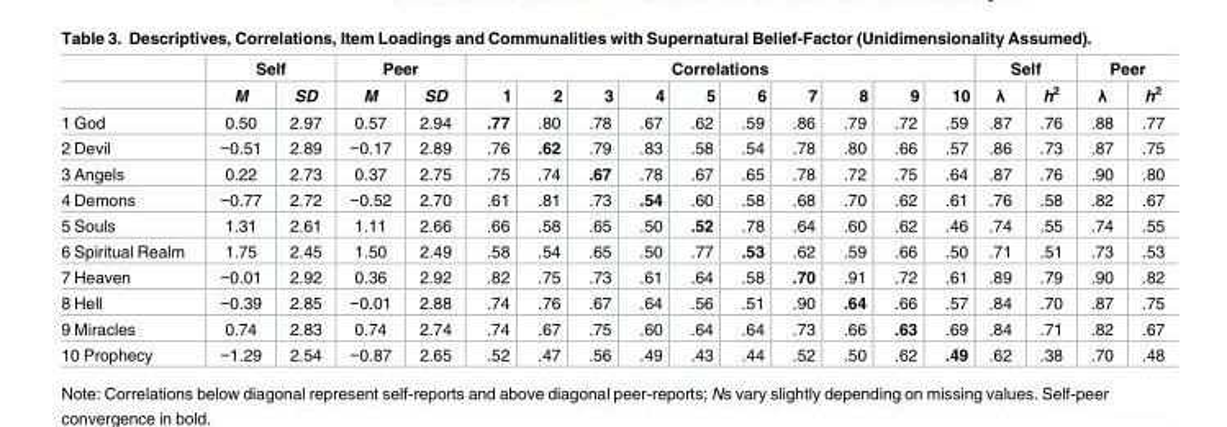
<table><thead><tr><td rowspan="2"></td><td colspan="2">Self</td><td colspan="2">Peer</td><td colspan="10">Correlations</td><td colspan="2">Self</td><td colspan="2">Peer</td></tr><tr><td>M</td><td>SD</td><td>M</td><td>SD</td><td>1</td><td>2</td><td>3</td><td>4</td><td>5</td><td>6</td><td>7</td><td>8</td><td>9</td><td>10</td><td>λ</td><td>h<sup>2</sup></td><td>λ</td><td>h<sup>2</sup></td></tr></thead><tbody><tr><td>1 God</td><td>0.50</td><td>2.97</td><td>0.57</td><td>2.94</td><td>.77</td><td>.80</td><td>.78</td><td>.67</td><td>.62</td><td>.59</td><td>.86</td><td>.79</td><td>.72</td><td>.59</td><td>.87</td><td>.76</td><td>.88</td><td>.77</td></tr><tr><td>2 Devil</td><td>−0.51</td><td>2.89</td><td>−0.17</td><td>2.89</td><td>.76</td><td>.62</td><td>.79</td><td>.83</td><td>.58</td><td>.54</td><td>.78</td><td>.80</td><td>.66</td><td>.57</td><td>.86</td><td>.73</td><td>.87</td><td>.75</td></tr><tr><td>3 Angels</td><td>0.22</td><td>2.73</td><td>0.37</td><td>2.75</td><td>.75</td><td>.74</td><td>.67</td><td>.78</td><td>.67</td><td>.65</td><td>.78</td><td>.72</td><td>.75</td><td>.64</td><td>.87</td><td>.76</td><td>.90</td><td>.80</td></tr><tr><td>4 Demons</td><td>−0.77</td><td>2.72</td><td>−0.52</td><td>2.70</td><td>.61</td><td>.81</td><td>.73</td><td>.54</td><td>.60</td><td>.58</td><td>.68</td><td>.70</td><td>.62</td><td>.61</td><td>.76</td><td>.58</td><td>.82</td><td>.67</td></tr><tr><td>5 Souls</td><td>1.31</td><td>2.61</td><td>1.11</td><td>2.66</td><td>.66</td><td>.58</td><td>.65</td><td>.50</td><td>.52</td><td>.78</td><td>.64</td><td>.60</td><td>.62</td><td>.46</td><td>.74</td><td>.55</td><td>.74</td><td>.55</td></tr><tr><td>6 Spiritual Realm</td><td>1.75</td><td>2.45</td><td>1.50</td><td>2.49</td><td>.58</td><td>.54</td><td>.65</td><td>.50</td><td>.77</td><td>.53</td><td>.62</td><td>.59</td><td>.66</td><td>.50</td><td>.71</td><td>.51</td><td>.73</td><td>.53</td></tr><tr><td>7 Heaven</td><td>−0.01</td><td>2.92</td><td>0.36</td><td>2.92</td><td>.82</td><td>.75</td><td>.73</td><td>.61</td><td>.64</td><td>.58</td><td>.70</td><td>.91</td><td>.72</td><td>.61</td><td>.89</td><td>.79</td><td>.90</td><td>.82</td></tr><tr><td>8 Hell</td><td>−0.39</td><td>2.85</td><td>−0.01</td><td>2.88</td><td>.74</td><td>.76</td><td>.67</td><td>.64</td><td>.56</td><td>.51</td><td>.90</td><td>.64</td><td>.66</td><td>.57</td><td>.84</td><td>.70</td><td>.87</td><td>.75</td></tr><tr><td>9 Miracles</td><td>0.74</td><td>2.83</td><td>0.74</td><td>2.74</td><td>.74</td><td>.67</td><td>.75</td><td>.60</td><td>.64</td><td>.64</td><td>.73</td><td>.66</td><td>.63</td><td>.69</td><td>.84</td><td>.71</td><td>.82</td><td>.67</td></tr><tr><td>10 Prophecy</td><td>−1.29</td><td>2.54</td><td>−0.87</td><td>2.65</td><td>.52</td><td>.47</td><td>.56</td><td>.49</td><td>.43</td><td>.44</td><td>.52</td><td>.50</td><td>.62</td><td>.49</td><td>.62</td><td>.38</td><td>.70</td><td>.48</td></tr></tbody></table>